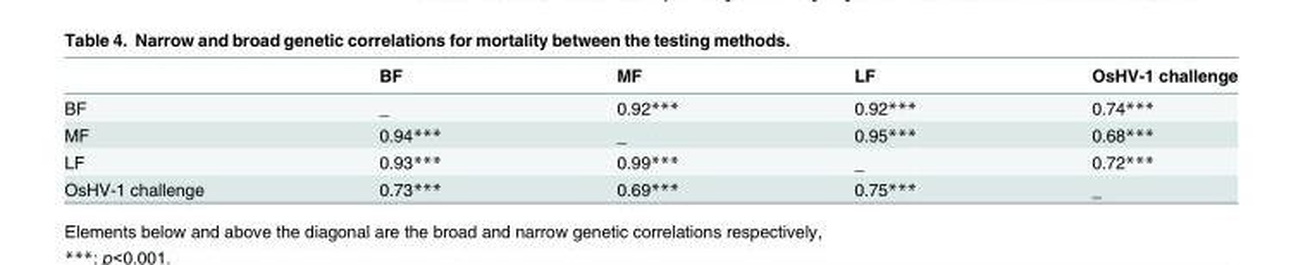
<table><thead><tr><td></td><td>BF</td><td>MF</td><td>LF</td><td>OsHV-1 challenge</td></tr></thead><tbody><tr><td>BF</td><td>_</td><td>0.92***</td><td>0.92***</td><td>0.74***</td></tr><tr><td>MF</td><td>0.94***</td><td>_</td><td>0.95***</td><td>0.68***</td></tr><tr><td>LF</td><td>0.93***</td><td>0.99***</td><td>_</td><td>0.72***</td></tr><tr><td>OsHV-1 challenge</td><td>0.73***</td><td>0.69***</td><td>0.75***</td><td>_</td></tr></tbody></table>